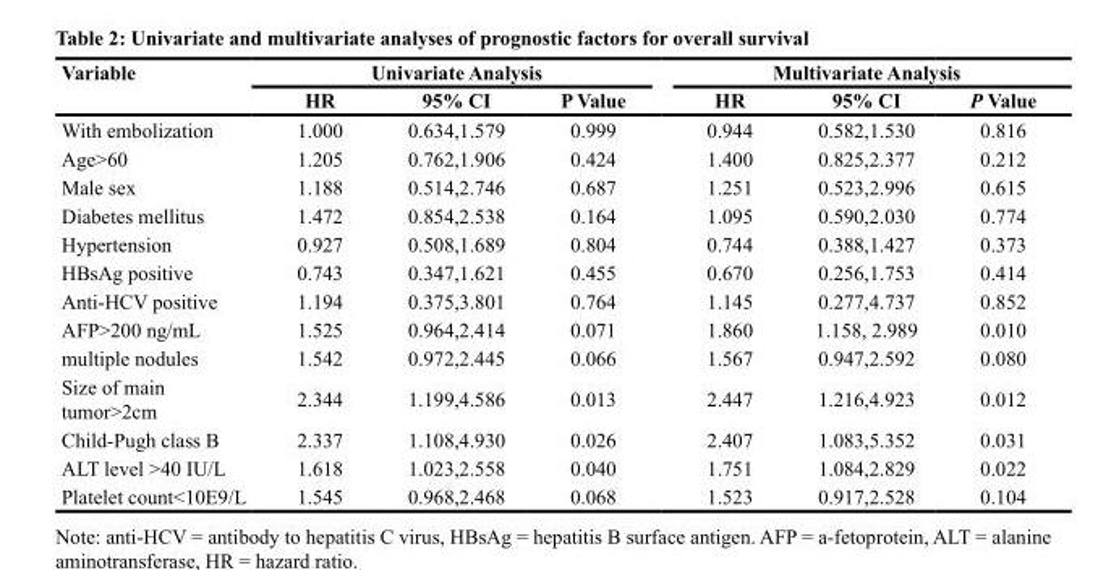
<table><thead><tr><td rowspan="2">Variable</td><td colspan="3">Univariate Analysis</td><td colspan="3">Multivariate Analysis</td></tr><tr><td>HR</td><td>95% CI</td><td>P Value</td><td>HR</td><td>95% CI</td><td>P Value</td></tr></thead><tbody><tr><td>With embolization</td><td>1.000</td><td>0.634,1.579</td><td>0.999</td><td>0.944</td><td>0.582,1.530</td><td>0.816</td></tr><tr><td>Age&gt;60</td><td>1.205</td><td>0.762,1.906</td><td>0.424</td><td>1.400</td><td>0.825,2.377</td><td>0.212</td></tr><tr><td>Male sex</td><td>1.188</td><td>0.514,2.746</td><td>0.687</td><td>1.251</td><td>0.523,2.996</td><td>0.615</td></tr><tr><td>Diabetes mellitus</td><td>1.472</td><td>0.854,2.538</td><td>0.164</td><td>1.095</td><td>0.590,2.030</td><td>0.774</td></tr><tr><td>Hypertension</td><td>0.927</td><td>0.508,1.689</td><td>0.804</td><td>0.744</td><td>0.388,1.427</td><td>0.373</td></tr><tr><td>HBsAg positive</td><td>0.743</td><td>0.347,1.621</td><td>0.455</td><td>0.670</td><td>0.256,1.753</td><td>0.414</td></tr><tr><td>Anti-HCV positive</td><td>1.194</td><td>0.375,3.801</td><td>0.764</td><td>1.145</td><td>0.277,4.737</td><td>0.852</td></tr><tr><td>AFP&gt;200 ng/mL</td><td>1.525</td><td>0.964,2.414</td><td>0.071</td><td>1.860</td><td>1.158, 2.989</td><td>0.010</td></tr><tr><td>multiple nodules</td><td>1.542</td><td>0.972,2.445</td><td>0.066</td><td>1.567</td><td>0.947,2.592</td><td>0.080</td></tr><tr><td>Size of main tumor&gt;2cm</td><td>2.344</td><td>1.199,4.586</td><td>0.013</td><td>2.447</td><td>1.216,4.923</td><td>0.012</td></tr><tr><td>Child-Pugh class B</td><td>2.337</td><td>1.108,4.930</td><td>0.026</td><td>2.407</td><td>1.083,5.352</td><td>0.031</td></tr><tr><td>ALT level &gt;40 IU/L</td><td>1.618</td><td>1.023,2.558</td><td>0.040</td><td>1.751</td><td>1.084,2.829</td><td>0.022</td></tr><tr><td>Platelet count&lt;10E9/L</td><td>1.545</td><td>0.968,2.468</td><td>0.068</td><td>1.523</td><td>0.917,2.528</td><td>0.104</td></tr></tbody></table>